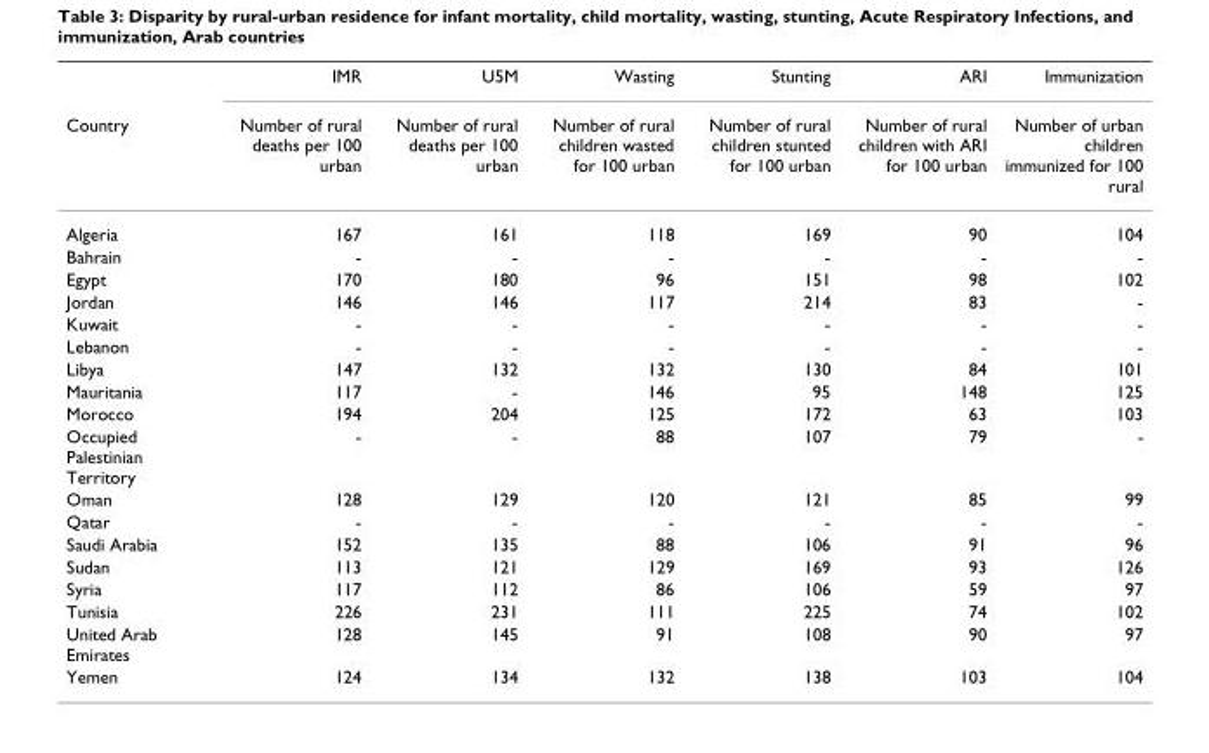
<table><thead><tr><td rowspan="2">Country</td><td rowspan="2">IMR Number of rural deaths per 100 urban</td><td rowspan="2">U5M Number of rural deaths per 100 urban</td><td rowspan="2">Wasting Number of rural children wasted for 100 urban</td><td rowspan="2">Stunting Number of rural children stunted for 100 urban</td><td rowspan="2">ARI Number of rural children with ARI for 100 urban</td><td rowspan="2">Immunization Number of urban children immunized for 100 rural</td></tr><tr></tr></thead><tbody><tr><td>Algeria</td><td>167</td><td>161</td><td>118</td><td>169</td><td>90</td><td>104</td></tr><tr><td>Bahrain</td><td>-</td><td>-</td><td>-</td><td>-</td><td>-</td><td>-</td></tr><tr><td>Egypt</td><td>170</td><td>180</td><td>96</td><td>151</td><td>98</td><td>102</td></tr><tr><td>Jordan</td><td>146</td><td>146</td><td>117</td><td>214</td><td>83</td><td>-</td></tr><tr><td>Kuwait</td><td>-</td><td>-</td><td>-</td><td>-</td><td>-</td><td>-</td></tr><tr><td>Lebanon</td><td>-</td><td>-</td><td>-</td><td>-</td><td>-</td><td>-</td></tr><tr><td>Libya</td><td>147</td><td>132</td><td>132</td><td>130</td><td>84</td><td>101</td></tr><tr><td>Mauritania</td><td>117</td><td>-</td><td>146</td><td>95</td><td>148</td><td>125</td></tr><tr><td>Morocco</td><td>194</td><td>204</td><td>125</td><td>172</td><td>63</td><td>103</td></tr><tr><td>Occupied Palestinian Territory</td><td>-</td><td>-</td><td>88</td><td>107</td><td>79</td><td>-</td></tr><tr><td>Oman</td><td>128</td><td>129</td><td>120</td><td>121</td><td>85</td><td>99</td></tr><tr><td>Qatar</td><td>-</td><td>-</td><td>-</td><td>-</td><td>-</td><td>-</td></tr><tr><td>Saudi Arabia</td><td>152</td><td>135</td><td>88</td><td>106</td><td>91</td><td>96</td></tr><tr><td>Sudan</td><td>113</td><td>121</td><td>129</td><td>169</td><td>93</td><td>126</td></tr><tr><td>Syria</td><td>117</td><td>112</td><td>86</td><td>106</td><td>59</td><td>97</td></tr><tr><td>Tunisia</td><td>226</td><td>231</td><td>111</td><td>225</td><td>74</td><td>102</td></tr><tr><td>United Arab Emirates</td><td>128</td><td>145</td><td>91</td><td>108</td><td>90</td><td>97</td></tr><tr><td>Yemen</td><td>124</td><td>134</td><td>132</td><td>138</td><td>103</td><td>104</td></tr></tbody></table>